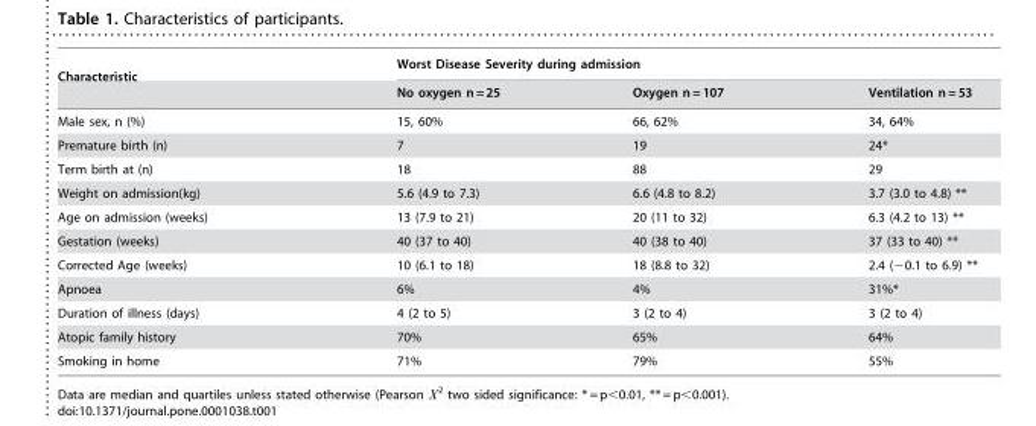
<table><thead><tr><td rowspan="2">Characteristic</td><td colspan="3">Worst Disease Severity during admission</td></tr><tr><td>No oxygen n = 25</td><td>Oxygen n = 107</td><td>Ventilation n = 53</td></tr></thead><tbody><tr><td>Male sex, n (%)</td><td>15, 60%</td><td>66, 62%</td><td>34, 64%</td></tr><tr><td>Premature birth (n)</td><td>7</td><td>19</td><td>24*</td></tr><tr><td>Term birth at (n)</td><td>18</td><td>88</td><td>29</td></tr><tr><td>Weight on admission(kg)</td><td>5.6 (4.9 to 7.3)</td><td>6.6 (4.8 to 8.2)</td><td>3.7 (3.0 to 4.8) **</td></tr><tr><td>Age on admission (weeks)</td><td>13 (7.9 to 21)</td><td>20 (11 to 32)</td><td>6.3 (4.2 to 13) **</td></tr><tr><td>Gestation (weeks)</td><td>40 (37 to 40)</td><td>40 (38 to 40)</td><td>37 (33 to 40) **</td></tr><tr><td>Corrected Age (weeks)</td><td>10 (6.1 to 18)</td><td>18 (8.8 to 32)</td><td>2.4 (−0.1 to 6.9) **</td></tr><tr><td>Apnoea</td><td>6%</td><td>4%</td><td>31%*</td></tr><tr><td>Duration of illness (days)</td><td>4 (2 to 5)</td><td>3 (2 to 4)</td><td>3 (2 to 4)</td></tr><tr><td>Atopic family history</td><td>70%</td><td>65%</td><td>64%</td></tr><tr><td>Smoking in home</td><td>71%</td><td>79%</td><td>55%</td></tr></tbody></table>